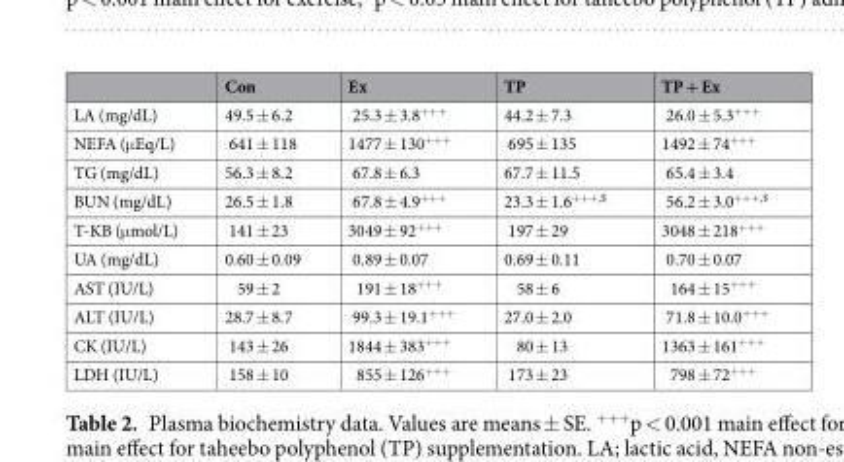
<table><thead><tr><td></td><td>Con</td><td>Ex</td><td>TP</td><td>TP + Ex</td></tr></thead><tbody><tr><td>LA (mg/dL)</td><td>49.5 ± 6.2</td><td>25.3 ± 3.8<sup>+++</sup></td><td>44.2 ± 7.3</td><td>26.0 ± 5.3<sup>+++</sup></td></tr><tr><td>NEFA (μEq/L)</td><td>641 ± 118</td><td>1477 ± 130<sup>+++</sup></td><td>695 ± 135</td><td>1492 ± 74<sup>+++</sup></td></tr><tr><td>TG (mg/dL)</td><td>56.3 ± 8.2</td><td>67.8 ± 6.3</td><td>67.7 ± 11.5</td><td>65.4 ± 3.4</td></tr><tr><td>BUN (mg/dL)</td><td>26.5 ± 1.8</td><td>67.8 ± 4.9<sup>+++</sup></td><td>23.3 ± 1.6<sup>+++,$</sup></td><td>56.2 ± 3.0<sup>+++,$</sup></td></tr><tr><td>T-KB (μmol/L)</td><td>141 ± 23</td><td>3049 ± 92<sup>+++</sup></td><td>197 ± 29</td><td>3048 ± 218<sup>+++</sup></td></tr><tr><td>UA (mg/dL)</td><td>0.60 ± 0.09</td><td>0.89 ± 0.07</td><td>0.69 ± 0.11</td><td>0.70 ± 0.07</td></tr><tr><td>AST (IU/L)</td><td>59 ± 2</td><td>191 ± 18<sup>+++</sup></td><td>58 ± 6</td><td>164 ± 15<sup>+++</sup></td></tr><tr><td>ALT (IU/L)</td><td>28.7 ± 8.7</td><td>99.3 ± 19.1<sup>+++</sup></td><td>27.0 ± 2.0</td><td>71.8 ± 10.0<sup>+++</sup></td></tr><tr><td>CK (IU/L)</td><td>143 ± 26</td><td>1844 ± 383<sup>+++</sup></td><td>80 ± 13</td><td>1363 ± 161<sup>+++</sup></td></tr><tr><td>LDH (IU/L)</td><td>158 ± 10</td><td>855 ± 126<sup>+++</sup></td><td>173 ± 23</td><td>798 ± 72<sup>+++</sup></td></tr></tbody></table>